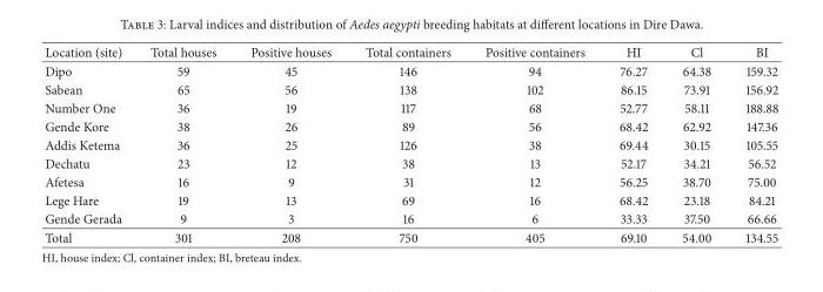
<table><thead><tr><td>Location (site)</td><td>Total houses</td><td>Positive houses</td><td>Total containers</td><td>Positive containers</td><td>HI</td><td>Cl</td><td>BI</td></tr></thead><tbody><tr><td>Dipo</td><td>59</td><td>45</td><td>146</td><td>94</td><td>76.27</td><td>64.38</td><td>159.32</td></tr><tr><td>Sabean</td><td>65</td><td>56</td><td>138</td><td>102</td><td>86.15</td><td>73.91</td><td>156.92</td></tr><tr><td>Number One</td><td>36</td><td>19</td><td>117</td><td>68</td><td>52.77</td><td>58.11</td><td>188.88</td></tr><tr><td>Gende Kore</td><td>38</td><td>26</td><td>89</td><td>56</td><td>68.42</td><td>62.92</td><td>147.36</td></tr><tr><td>Addis Ketema</td><td>36</td><td>25</td><td>126</td><td>38</td><td>69.44</td><td>30.15</td><td>105.55</td></tr><tr><td>Dechatu</td><td>23</td><td>12</td><td>38</td><td>13</td><td>52.17</td><td>34.21</td><td>56.52</td></tr><tr><td>Afetesa</td><td>16</td><td>9</td><td>31</td><td>12</td><td>56.25</td><td>38.70</td><td>75.00</td></tr><tr><td>Lege Hare</td><td>19</td><td>13</td><td>69</td><td>16</td><td>68.42</td><td>23.18</td><td>84.21</td></tr><tr><td>Gende Gerada</td><td>9</td><td>3</td><td>16</td><td>6</td><td>33.33</td><td>37.50</td><td>66.66</td></tr><tr><td>Total</td><td>301</td><td>208</td><td>750</td><td>405</td><td>69.10</td><td>54.00</td><td>134.55</td></tr></tbody></table>